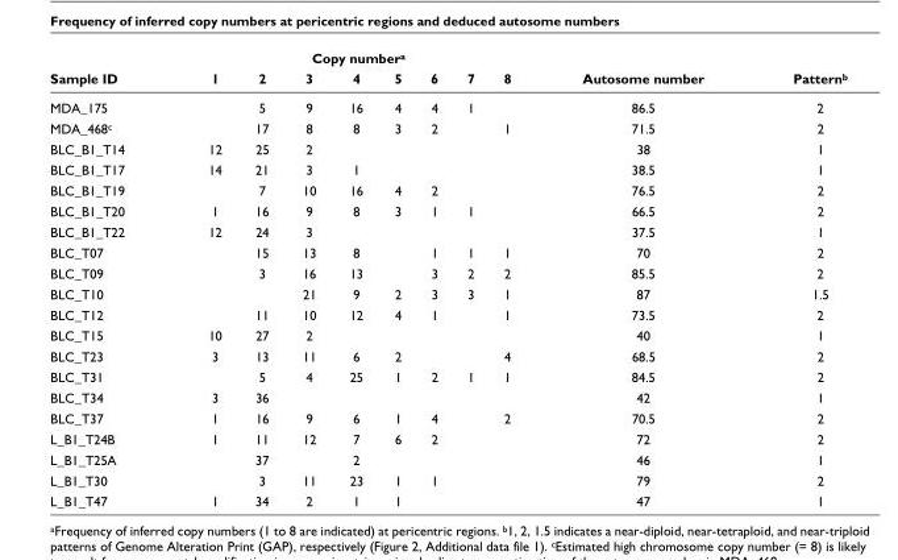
<table><thead><tr><td rowspan="2">Sample ID</td><td colspan="8">Copy number<sup>a</sup></td><td rowspan="2">Autosome number</td><td rowspan="2">Pattern<sup>b</sup></td></tr><tr><td>1</td><td>2</td><td>3</td><td>4</td><td>5</td><td>6</td><td>7</td><td>8</td></tr></thead><tbody><tr><td>MDA_175</td><td></td><td>5</td><td>9</td><td>16</td><td>4</td><td>4</td><td>1</td><td></td><td>86.5</td><td>2</td></tr><tr><td>MDA_468<sup>c</sup></td><td></td><td>17</td><td>8</td><td>8</td><td>3</td><td>2</td><td></td><td>1</td><td>71.5</td><td>2</td></tr><tr><td>BLC_B1_T14</td><td>12</td><td>25</td><td>2</td><td></td><td></td><td></td><td></td><td></td><td>38</td><td>1</td></tr><tr><td>BLC_B1_T17</td><td>14</td><td>21</td><td>3</td><td>1</td><td></td><td></td><td></td><td></td><td>38.5</td><td>1</td></tr><tr><td>BLC_B1_T19</td><td></td><td>7</td><td>10</td><td>16</td><td>4</td><td>2</td><td></td><td></td><td>76.5</td><td>2</td></tr><tr><td>BLC_B1_T20</td><td>1</td><td>16</td><td>9</td><td>8</td><td>3</td><td>1</td><td>1</td><td></td><td>66.5</td><td>2</td></tr><tr><td>BLC_B1_T22</td><td>12</td><td>24</td><td>3</td><td></td><td></td><td></td><td></td><td></td><td>37.5</td><td>1</td></tr><tr><td>BLC_T07</td><td></td><td>15</td><td>13</td><td>8</td><td></td><td>1</td><td>1</td><td>1</td><td>70</td><td>2</td></tr><tr><td>BLC_T09</td><td></td><td>3</td><td>16</td><td>13</td><td></td><td>3</td><td>2</td><td>2</td><td>85.5</td><td>2</td></tr><tr><td>BLC_T10</td><td></td><td></td><td>21</td><td>9</td><td>2</td><td>3</td><td>3</td><td>1</td><td>87</td><td>1.5</td></tr><tr><td>BLC_T12</td><td></td><td>11</td><td>10</td><td>12</td><td>4</td><td>1</td><td></td><td>1</td><td>73.5</td><td>2</td></tr><tr><td>BLC_T15</td><td>10</td><td>27</td><td>2</td><td></td><td></td><td></td><td></td><td></td><td>40</td><td>1</td></tr><tr><td>BLC_T23</td><td>3</td><td>13</td><td>11</td><td>6</td><td>2</td><td></td><td></td><td>4</td><td>68.5</td><td>2</td></tr><tr><td>BLC_T31</td><td></td><td>5</td><td>4</td><td>25</td><td>1</td><td>2</td><td>1</td><td>1</td><td>84.5</td><td>2</td></tr><tr><td>BLC_T34</td><td>3</td><td>36</td><td></td><td></td><td></td><td></td><td></td><td></td><td>42</td><td>1</td></tr><tr><td>BLC_T37</td><td>1</td><td>16</td><td>9</td><td>6</td><td>1</td><td>4</td><td></td><td>2</td><td>70.5</td><td>2</td></tr><tr><td>L_B1_T24B</td><td>1</td><td>11</td><td>12</td><td>7</td><td>6</td><td>2</td><td></td><td></td><td>72</td><td>2</td></tr><tr><td>L_B1_T25A</td><td></td><td>37</td><td></td><td>2</td><td></td><td></td><td></td><td></td><td>46</td><td>1</td></tr><tr><td>L_B1_T30</td><td></td><td>3</td><td>11</td><td>23</td><td>1</td><td>1</td><td></td><td></td><td>79</td><td>2</td></tr><tr><td>L_B1_T47</td><td>1</td><td>34</td><td>2</td><td>1</td><td>1</td><td></td><td></td><td></td><td>47</td><td>1</td></tr></tbody></table>